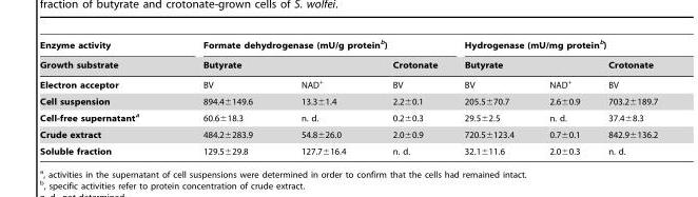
<table><thead><tr><td rowspan="3">Enzyme activity Growth substrate Electron acceptor</td><td colspan="3">Formate dehydrogenase (mU/g protein<sup>b</sup>)</td><td colspan="3">Hydrogenase (mU/mg protein<sup>b</sup>)</td></tr><tr><td colspan="2">Butyrate</td><td rowspan="2">Crotonate BV</td><td colspan="2">Butyrate</td><td rowspan="2">Crotonate BV</td></tr><tr><td>BV</td><td>NAD<sup>+</sup></td><td>BV</td><td>NAD<sup>+</sup></td></tr></thead><tbody><tr><td>Cell suspension</td><td>894.4±149.6</td><td>13.3±1.4</td><td>2.2±0.1</td><td>205.5±70.7</td><td>2.6±0.9</td><td>703.2±189.7</td></tr><tr><td>Cell-free supernatanta</td><td>60.6±18.3</td><td>n. d.</td><td>0.2±0.3</td><td>29.5±2.5</td><td>n. d.</td><td>37.4±8.3</td></tr><tr><td>Crude extract</td><td>484.2±283.9</td><td>54.8±26.0</td><td>2.0±0.9</td><td>720.5±123.4</td><td>0.7±0.1</td><td>842.9±136.2</td></tr><tr><td>Soluble fraction</td><td>129.5±29.8</td><td>127.7±16.4</td><td>n. d.</td><td>32.1±11.6</td><td>2.0±0.3</td><td>n. d.</td></tr></tbody></table>